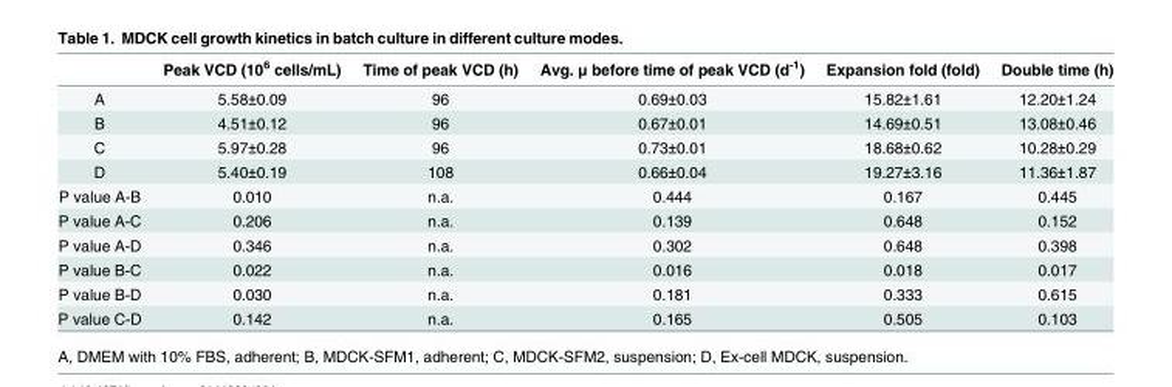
<table><thead><tr><td></td><td>Peak VCD (10<sup>6</sup> cells/mL)</td><td>Time of peak VCD (h)</td><td>Avg. μ before time of peak VCD (d<sup>-1</sup>)</td><td>Expansion fold (fold)</td><td>Double time (h)</td></tr></thead><tbody><tr><td>A</td><td>5.58±0.09</td><td>96</td><td>0.69±0.03</td><td>15.82±1.61</td><td>12.20±1.24</td></tr><tr><td>B</td><td>4.51±0.12</td><td>96</td><td>0.67±0.01</td><td>14.69±0.51</td><td>13.08±0.46</td></tr><tr><td>C</td><td>5.97±0.28</td><td>96</td><td>0.73±0.01</td><td>18.68±0.62</td><td>10.28±0.29</td></tr><tr><td>D</td><td>5.40±0.19</td><td>108</td><td>0.66±0.04</td><td>19.27±3.16</td><td>11.36±1.87</td></tr><tr><td>P value A-B</td><td>0.010</td><td>n.a.</td><td>0.444</td><td>0.167</td><td>0.445</td></tr><tr><td>P value A-C</td><td>0.206</td><td>n.a.</td><td>0.139</td><td>0.648</td><td>0.152</td></tr><tr><td>P value A-D</td><td>0.346</td><td>n.a.</td><td>0.302</td><td>0.648</td><td>0.398</td></tr><tr><td>P value B-C</td><td>0.022</td><td>n.a.</td><td>0.016</td><td>0.018</td><td>0.017</td></tr><tr><td>P value B-D</td><td>0.030</td><td>n.a.</td><td>0.181</td><td>0.333</td><td>0.615</td></tr><tr><td>P value C-D</td><td>0.142</td><td>n.a.</td><td>0.165</td><td>0.505</td><td>0.103</td></tr></tbody></table>